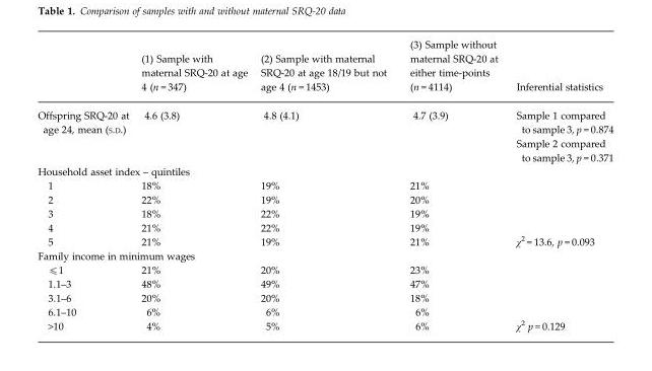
<table><thead><tr><td></td><td>(1) Sample with maternal SRQ-20 at age 4 (n = 347)</td><td>(2) Sample with maternal SRQ-20 at age 18/19 but not age 4 (n = 1453)</td><td>(3) Sample without maternal SRQ-20 at either time-points (n = 4114)</td><td>Inferential statistics</td></tr></thead><tbody><tr><td rowspan="2">Offspring SRQ-20 at age 24, mean (S.D.)</td><td rowspan="2">4.6 (3.8)</td><td rowspan="2">4.8 (4.1)</td><td rowspan="2">4.7 (3.9)</td><td>Sample 1 compared to sample 3, p = 0.874</td></tr><tr><td>Sample 2 compared to sample 3, p = 0.371</td></tr><tr><td colspan="5">Household asset index – quintiles</td></tr><tr><td>1</td><td>18%</td><td>19%</td><td>21%</td><td></td></tr><tr><td>2</td><td>22%</td><td>19%</td><td>20%</td><td></td></tr><tr><td>3</td><td>18%</td><td>22%</td><td>19%</td><td></td></tr><tr><td>4</td><td>21%</td><td>22%</td><td>19%</td><td></td></tr><tr><td>5</td><td>21%</td><td>19%</td><td>21%</td><td>χ<sup>2</sup> = 13.6, p = 0.093</td></tr><tr><td colspan="5">Family income in minimum wages</td></tr><tr><td>⩽1</td><td>21%</td><td>20%</td><td>23%</td><td></td></tr><tr><td>1.1–3</td><td>48%</td><td>49%</td><td>47%</td><td></td></tr><tr><td>3.1–6</td><td>20%</td><td>20%</td><td>18%</td><td></td></tr><tr><td>6.1–10</td><td>6%</td><td>6%</td><td>6%</td><td></td></tr><tr><td>&gt;10</td><td>4%</td><td>5%</td><td>6%</td><td>χ<sup>2</sup> p = 0.129</td></tr></tbody></table>